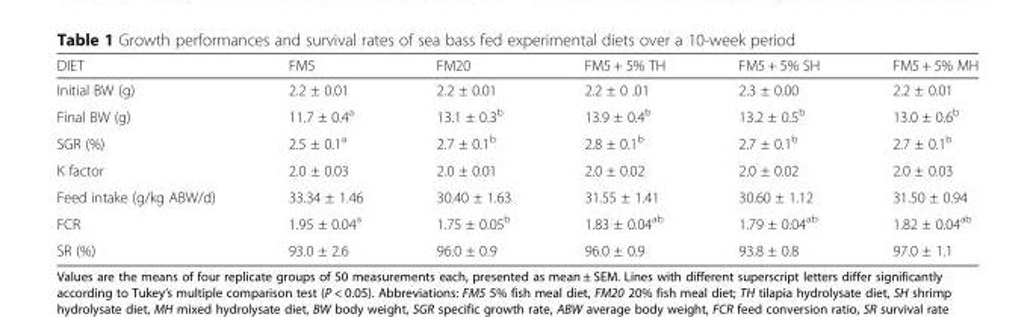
<table><thead><tr><td>DIET</td><td>FM5</td><td>FM20</td><td>FM5 + 5% TH</td><td>FM5 + 5% SH</td><td>FM5 + 5% MH</td></tr></thead><tbody><tr><td>Initial BW (g)</td><td>2.2 ± 0.01</td><td>2.2 ± 0.01</td><td>2.2 ± 0 .01</td><td>2.3 ± 0.00</td><td>2.2 ± 0.01</td></tr><tr><td>Final BW (g)</td><td>11.7 ± 0.4<sup>a</sup></td><td>13.1 ± 0.3<sup>b</sup></td><td>13.9 ± 0.4<sup>b</sup></td><td>13.2 ± 0.5<sup>b</sup></td><td>13.0 ± 0.6<sup>b</sup></td></tr><tr><td>SGR (%)</td><td>2.5 ± 0.1<sup>a</sup></td><td>2.7 ± 0.1<sup>b</sup></td><td>2.8 ± 0.1<sup>b</sup></td><td>2.7 ± 0.1<sup>b</sup></td><td>2.7 ± 0.1<sup>b</sup></td></tr><tr><td>K factor</td><td>2.0 ± 0.03</td><td>2.0 ± 0.01</td><td>2.0 ± 0.02</td><td>2.0 ± 0.02</td><td>2.0 ± 0.03</td></tr><tr><td>Feed intake (g/kg ABW/d)</td><td>33.34 ± 1.46</td><td>30.40 ± 1.63</td><td>31.55 ± 1.41</td><td>30.60 ± 1.12</td><td>31.50 ± 0.94</td></tr><tr><td>FCR</td><td>1.95 ± 0.04<sup>a</sup></td><td>1.75 ± 0.05<sup>b</sup></td><td>1.83 ± 0.04<sup>ab</sup></td><td>1.79 ± 0.04<sup>ab</sup></td><td>1.82 ± 0.04<sup>ab</sup></td></tr><tr><td>SR (%)</td><td>93.0 ± 2.6</td><td>96.0 ± 0.9</td><td>96.0 ± 0.9</td><td>93.8 ± 0.8</td><td>97.0 ± 1.1</td></tr></tbody></table>